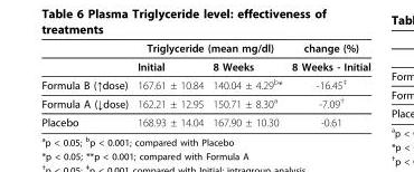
<table><thead><tr><td rowspan="2"></td><td colspan="2">Triglyceride (mean mg/dl)</td><td rowspan="2">change (%) 8 Weeks - Initial</td></tr><tr><td>Initial</td><td>8 Weeks</td></tr></thead><tbody><tr><td>Formula B (↑dose)</td><td>167.61 ± 10.84</td><td>140.04 ± 4.29b*</td><td>-16.45‡</td></tr><tr><td>Formula A (↓dose)</td><td>162.21 ± 12.95</td><td>150.71 ± 8.30a</td><td>-7.09†</td></tr><tr><td>Placebo</td><td>168.93 ± 14.04</td><td>167.90 ± 10.30</td><td>-0.61</td></tr></tbody></table>